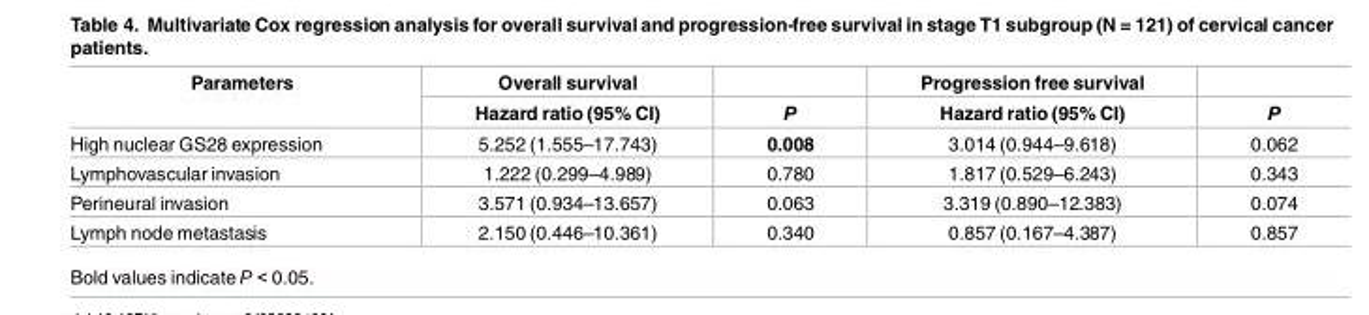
<table><thead><tr><td rowspan="2">Parameters</td><td rowspan="2">Overall survival Hazard ratio (95% CI)</td><td rowspan="2">P</td><td rowspan="2">Progression free survival Hazard ratio (95% CI)</td><td rowspan="2">P</td></tr><tr></tr></thead><tbody><tr><td>High nuclear GS28 expression</td><td>5.252 (1.555–17.743)</td><td>0.008</td><td>3.014 (0.944–9.618)</td><td>0.062</td></tr><tr><td>Lymphovascular invasion</td><td>1.222 (0.299–4.989)</td><td>0.780</td><td>1.817 (0.529–6.243)</td><td>0.343</td></tr><tr><td>Perineural invasion</td><td>3.571 (0.934–13.657)</td><td>0.063</td><td>3.319 (0.890–12.383)</td><td>0.074</td></tr><tr><td>Lymph node metastasis</td><td>2.150 (0.446–10.361)</td><td>0.340</td><td>0.857 (0.167–4.387)</td><td>0.857</td></tr></tbody></table>